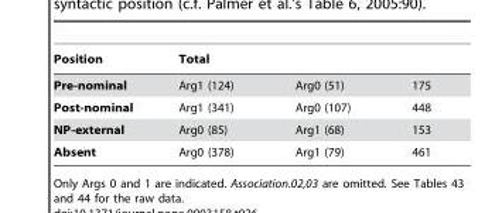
<table><thead><tr><td rowspan="2">Position Pre-nominal</td><td colspan="3">Total</td></tr><tr><td>Arg1 (124)</td><td>Arg0 (51)</td><td>175</td></tr></thead><tbody><tr><td>Post-nominal</td><td>Arg1 (341)</td><td>Arg0 (107)</td><td>448</td></tr><tr><td>NP-external</td><td>Arg0 (85)</td><td>Arg1 (68)</td><td>153</td></tr><tr><td>Absent</td><td>Arg0 (378)</td><td>Arg1 (79)</td><td>461</td></tr></tbody></table>